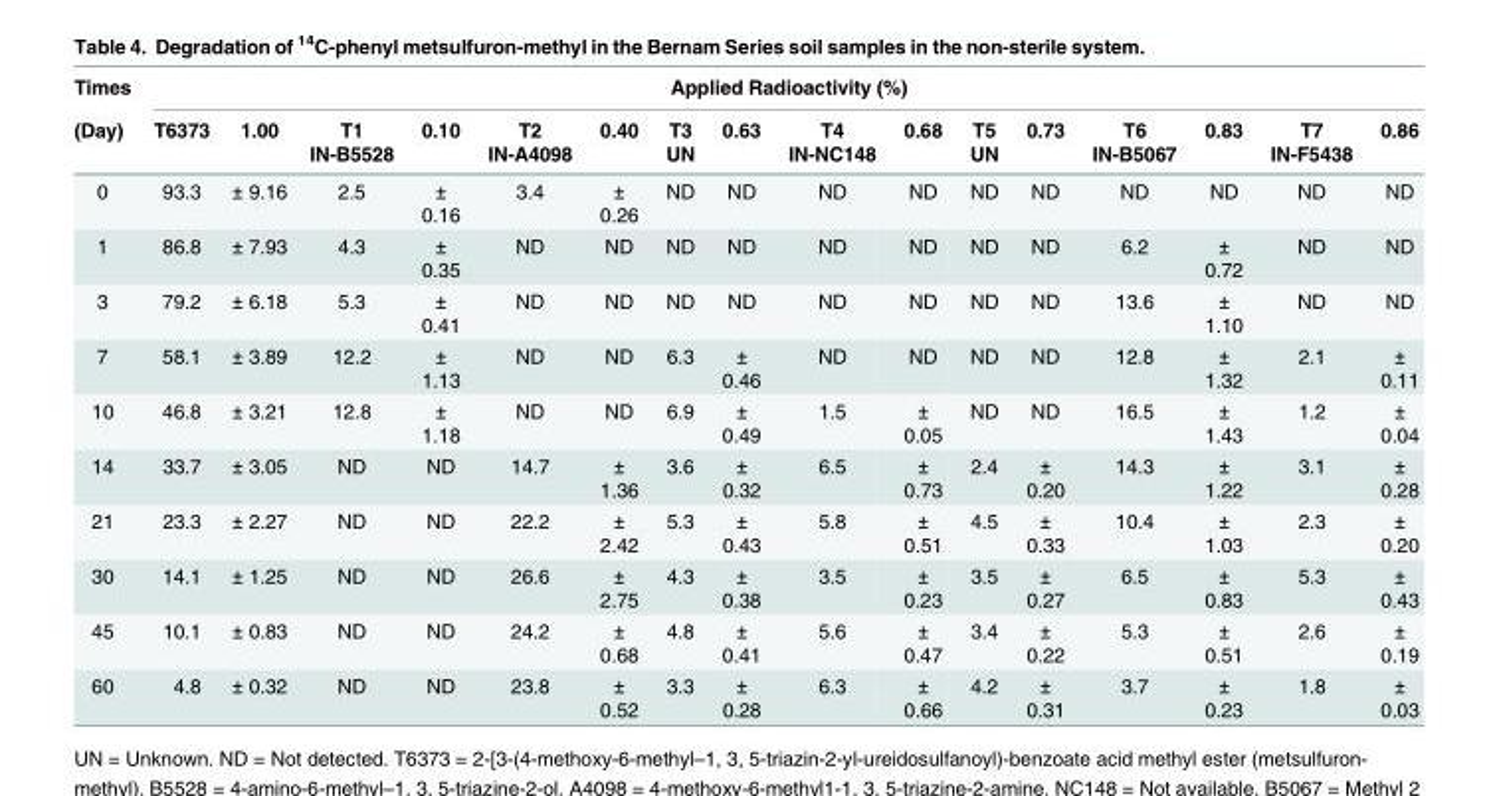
<table><thead><tr><td rowspan="3">Times (Day)</td><td colspan="16">Applied Radioactivity (%)</td></tr><tr><td rowspan="2">T6373</td><td rowspan="2">1.00</td><td rowspan="2">T1 IN-B5528</td><td rowspan="2">0.10</td><td rowspan="2">T2 IN-A4098</td><td rowspan="2">0.40</td><td rowspan="2">T3 UN</td><td rowspan="2">0.63</td><td rowspan="2">T4 IN-NC148</td><td rowspan="2">0.68</td><td rowspan="2">T5 UN</td><td rowspan="2">0.73</td><td rowspan="2">T6 IN-B5067</td><td rowspan="2">0.83</td><td rowspan="2">T7 IN-F5438</td><td rowspan="2">0.86</td></tr><tr></tr></thead><tbody><tr><td>0</td><td>93.3</td><td>± 9.16</td><td>2.5</td><td>± 0.16</td><td>3.4</td><td>± 0.26</td><td>ND</td><td>ND</td><td>ND</td><td>ND</td><td>ND</td><td>ND</td><td>ND</td><td>ND</td><td>ND</td><td>ND</td></tr><tr><td>1</td><td>86.8</td><td>± 7.93</td><td>4.3</td><td>± 0.35</td><td>ND</td><td>ND</td><td>ND</td><td>ND</td><td>ND</td><td>ND</td><td>ND</td><td>ND</td><td>6.2</td><td>± 0.72</td><td>ND</td><td>ND</td></tr><tr><td>3</td><td>79.2</td><td>± 6.18</td><td>5.3</td><td>± 0.41</td><td>ND</td><td>ND</td><td>ND</td><td>ND</td><td>ND</td><td>ND</td><td>ND</td><td>ND</td><td>13.6</td><td>± 1.10</td><td>ND</td><td>ND</td></tr><tr><td>7</td><td>58.1</td><td>± 3.89</td><td>12.2</td><td>± 1.13</td><td>ND</td><td>ND</td><td>6.3</td><td>± 0.46</td><td>ND</td><td>ND</td><td>ND</td><td>ND</td><td>12.8</td><td>± 1.32</td><td>2.1</td><td>± 0.11</td></tr><tr><td>10</td><td>46.8</td><td>± 3.21</td><td>12.8</td><td>± 1.18</td><td>ND</td><td>ND</td><td>6.9</td><td>± 0.49</td><td>1.5</td><td>± 0.05</td><td>ND</td><td>ND</td><td>16.5</td><td>± 1.43</td><td>1.2</td><td>± 0.04</td></tr><tr><td>14</td><td>33.7</td><td>± 3.05</td><td>ND</td><td>ND</td><td>14.7</td><td>± 1.36</td><td>3.6</td><td>± 0.32</td><td>6.5</td><td>± 0.73</td><td>2.4</td><td>± 0.20</td><td>14.3</td><td>± 1.22</td><td>3.1</td><td>± 0.28</td></tr><tr><td>21</td><td>23.3</td><td>± 2.27</td><td>ND</td><td>ND</td><td>22.2</td><td>± 2.42</td><td>5.3</td><td>± 0.43</td><td>5.8</td><td>± 0.51</td><td>4.5</td><td>± 0.33</td><td>10.4</td><td>± 1.03</td><td>2.3</td><td>± 0.20</td></tr><tr><td>30</td><td>14.1</td><td>± 1.25</td><td>ND</td><td>ND</td><td>26.6</td><td>± 2.75</td><td>4.3</td><td>± 0.38</td><td>3.5</td><td>± 0.23</td><td>3.5</td><td>± 0.27</td><td>6.5</td><td>± 0.83</td><td>5.3</td><td>± 0.43</td></tr><tr><td>45</td><td>10.1</td><td>± 0.83</td><td>ND</td><td>ND</td><td>24.2</td><td>± 0.68</td><td>4.8</td><td>± 0.41</td><td>5.6</td><td>± 0.47</td><td>3.4</td><td>± 0.22</td><td>5.3</td><td>± 0.51</td><td>2.6</td><td>± 0.19</td></tr><tr><td>60</td><td>4.8</td><td>± 0.32</td><td>ND</td><td>ND</td><td>23.8</td><td>± 0.52</td><td>3.3</td><td>± 0.28</td><td>6.3</td><td>± 0.66</td><td>4.2</td><td>± 0.31</td><td>3.7</td><td>± 0.23</td><td>1.8</td><td>± 0.03</td></tr></tbody></table>